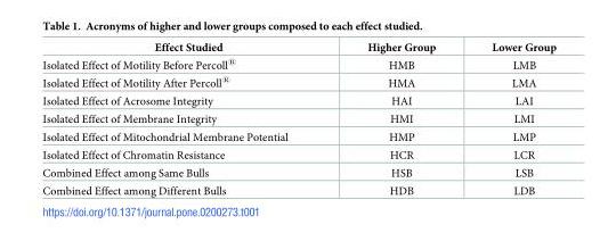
<table><thead><tr><td>Effect Studied</td><td>Higher Group</td><td>Lower Group</td></tr></thead><tbody><tr><td>Isolated Effect of Motility Before Percoll<sup>®</sup></td><td>HMB</td><td>LMB</td></tr><tr><td>Isolated Effect of Motility After Percoll<sup>®</sup></td><td>HMA</td><td>LMA</td></tr><tr><td>Isolated Effect of Acrosome Integrity</td><td>HAI</td><td>LAI</td></tr><tr><td>Isolated Effect of Membrane Integrity</td><td>HMI</td><td>LMI</td></tr><tr><td>Isolated Effect of Mitochondrial Membrane Potential</td><td>HMP</td><td>LMP</td></tr><tr><td>Isolated Effect of Chromatin Resistance</td><td>HCR</td><td>LCR</td></tr><tr><td>Combined Effect among Same Bulls</td><td>HSB</td><td>LSB</td></tr><tr><td>Combined Effect among Different Bulls</td><td>HDB</td><td>LDB</td></tr></tbody></table>